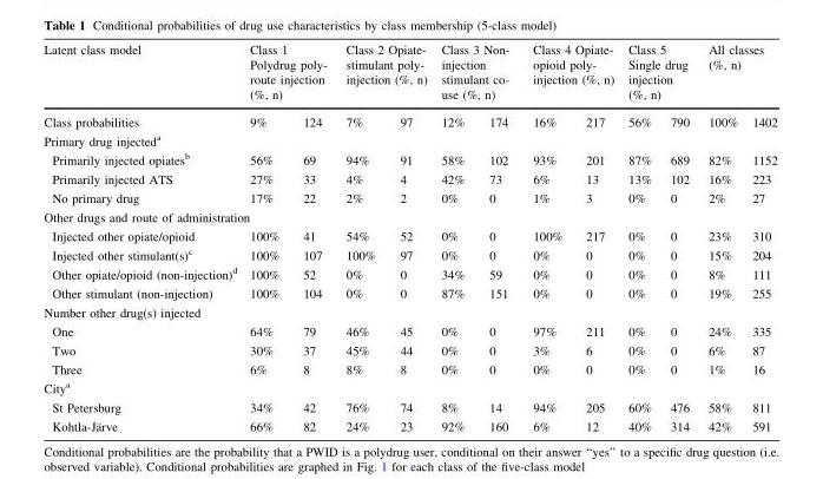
<table><thead><tr><td rowspan="2">Latent class model Class probabilities</td><td colspan="2">Class 1 Polydrug poly- route injection (%, n)</td><td colspan="2">Class 2 Opiate- stimulant poly- injection (%, n)</td><td colspan="2">Class 3 Non- injection stimulant co- use (%, n)</td><td colspan="2">Class 4 Opiate- opioid poly- injection (%, n)</td><td colspan="2">Class 5 Single drug injection (%, n)</td><td colspan="2">All classes (%, n)</td></tr><tr><td>9%</td><td>124</td><td>7%</td><td>97</td><td>12%</td><td>174</td><td>16%</td><td>217</td><td>56%</td><td>790</td><td>100%</td><td>1402</td></tr></thead><tbody><tr><td colspan="13">Primary drug injected<sup>a</sup></td></tr><tr><td>Primarily injected opiates<sup>b</sup></td><td>56%</td><td>69</td><td>94%</td><td>91</td><td>58%</td><td>102</td><td>93%</td><td>201</td><td>87%</td><td>689</td><td>82%</td><td>1152</td></tr><tr><td>Primarily injected ATS</td><td>27%</td><td>33</td><td>4%</td><td>4</td><td>42%</td><td>73</td><td>6%</td><td>13</td><td>13%</td><td>102</td><td>16%</td><td>223</td></tr><tr><td>No primary drug</td><td>17%</td><td>22</td><td>2%</td><td>2</td><td>0%</td><td>0</td><td>1%</td><td>3</td><td>0%</td><td>0</td><td>2%</td><td>27</td></tr><tr><td colspan="13">Other drugs and route of administration</td></tr><tr><td>Injected other opiate/opioid</td><td>100%</td><td>41</td><td>54%</td><td>52</td><td>0%</td><td>0</td><td>100%</td><td>217</td><td>0%</td><td>0</td><td>23%</td><td>310</td></tr><tr><td>Injected other stimulant(s)<sup>c</sup></td><td>100%</td><td>107</td><td>100%</td><td>97</td><td>0%</td><td>0</td><td>0%</td><td>0</td><td>0%</td><td>0</td><td>15%</td><td>204</td></tr><tr><td>Other opiate/opioid (non-injection)<sup>d</sup></td><td>100%</td><td>52</td><td>0%</td><td>0</td><td>34%</td><td>59</td><td>0%</td><td>0</td><td>0%</td><td>0</td><td>8%</td><td>111</td></tr><tr><td>Other stimulant (non-injection)</td><td>100%</td><td>104</td><td>0%</td><td>0</td><td>87%</td><td>151</td><td>0%</td><td>0</td><td>0%</td><td>0</td><td>19%</td><td>255</td></tr><tr><td colspan="13">Number other drug(s) injected</td></tr><tr><td>One</td><td>64%</td><td>79</td><td>46%</td><td>45</td><td>0%</td><td>0</td><td>97%</td><td>211</td><td>0%</td><td>0</td><td>24%</td><td>335</td></tr><tr><td>Two</td><td>30%</td><td>37</td><td>45%</td><td>44</td><td>0%</td><td>0</td><td>3%</td><td>6</td><td>0%</td><td>0</td><td>6%</td><td>87</td></tr><tr><td>Three</td><td>6%</td><td>8</td><td>8%</td><td>8</td><td>0%</td><td>0</td><td>0%</td><td>0</td><td>0%</td><td>0</td><td>1%</td><td>16</td></tr><tr><td colspan="13">City<sup>a</sup></td></tr><tr><td>St Petersburg</td><td>34%</td><td>42</td><td>76%</td><td>74</td><td>8%</td><td>14</td><td>94%</td><td>205</td><td>60%</td><td>476</td><td>58%</td><td>811</td></tr><tr><td>Kohtla-Ja¨rve</td><td>66%</td><td>82</td><td>24%</td><td>23</td><td>92%</td><td>160</td><td>6%</td><td>12</td><td>40%</td><td>314</td><td>42%</td><td>591</td></tr></tbody></table>